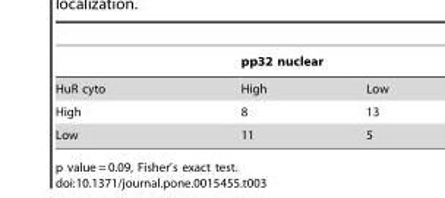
<table><thead><tr><td rowspan="2">HuR cyto</td><td colspan="2">pp32 nuclear</td></tr><tr><td>High</td><td>Low</td></tr></thead><tbody><tr><td>High</td><td>8</td><td>13</td></tr><tr><td>Low</td><td>11</td><td>5</td></tr></tbody></table>